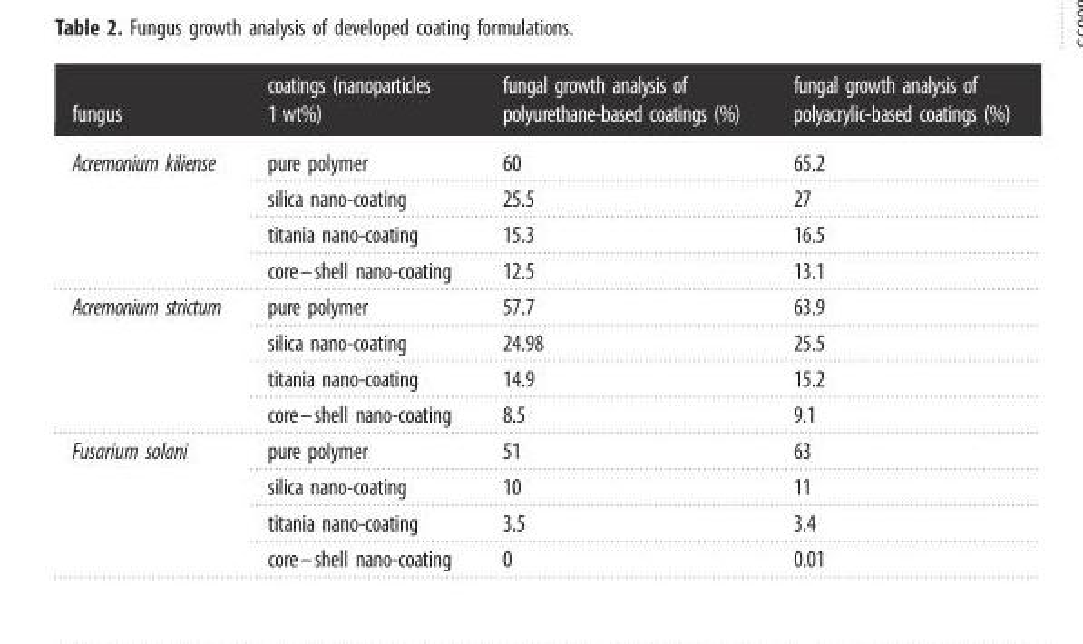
<table><thead><tr><td>fungus</td><td>coatings (nanoparticles 1 wt%)</td><td>fungal growth analysis of polyurethane-based coatings (%)</td><td>fungal growth analysis of polyacrylic-based coatings (%)</td></tr></thead><tbody><tr><td rowspan="4">Acremonium kiliense</td><td>pure polymer</td><td>60</td><td>65.2</td></tr><tr><td>silica nano-coating</td><td>25.5</td><td>27</td></tr><tr><td>titania nano-coating</td><td>15.3</td><td>16.5</td></tr><tr><td>core–shell nano-coating</td><td>12.5</td><td>13.1</td></tr><tr><td rowspan="4">Acremonium strictum</td><td>pure polymer</td><td>57.7</td><td>63.9</td></tr><tr><td>silica nano-coating</td><td>24.98</td><td>25.5</td></tr><tr><td>titania nano-coating</td><td>14.9</td><td>15.2</td></tr><tr><td>core–shell nano-coating</td><td>8.5</td><td>9.1</td></tr><tr><td rowspan="4">Fusarium solani</td><td>pure polymer</td><td>51</td><td>63</td></tr><tr><td>silica nano-coating</td><td>10</td><td>11</td></tr><tr><td>titania nano-coating</td><td>3.5</td><td>3.4</td></tr><tr><td>core–shell nano-coating</td><td>0</td><td>0.01</td></tr></tbody></table>